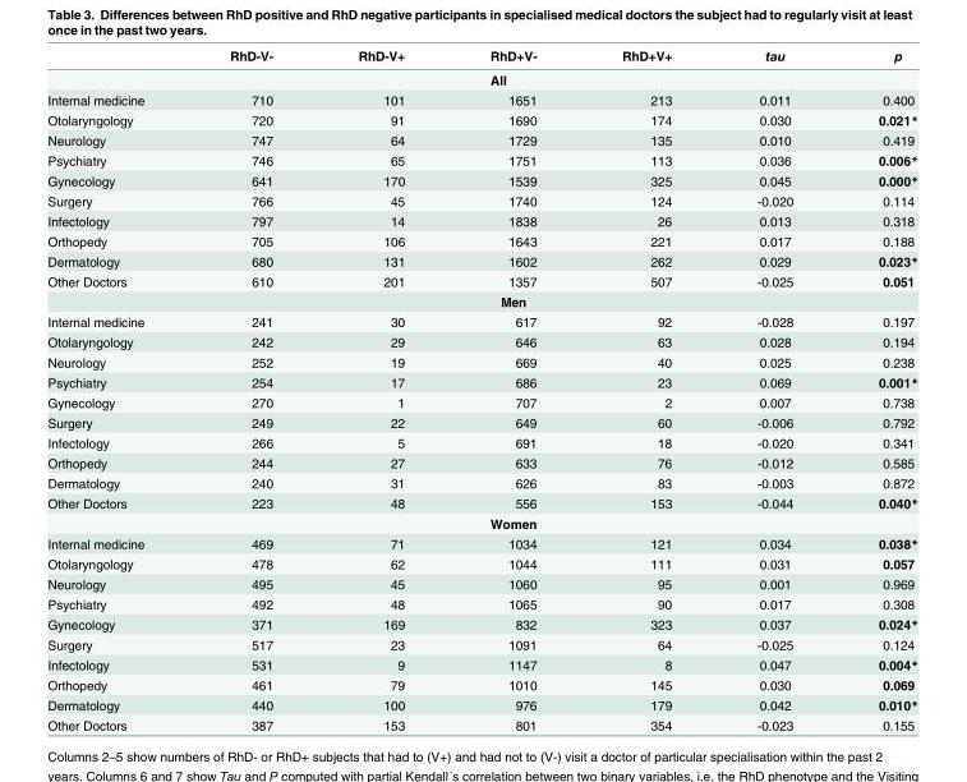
<table><thead><tr><td></td><td>RhD-V-</td><td>RhD-V+</td><td>RhD+V-</td><td>RhD+V+</td><td>tau</td><td>p</td></tr></thead><tbody><tr><td></td><td></td><td></td><td>All</td><td></td><td></td><td></td></tr><tr><td>Internal medicine</td><td>710</td><td>101</td><td>1651</td><td>213</td><td>0.011</td><td>0.400</td></tr><tr><td>Otolaryngology</td><td>720</td><td>91</td><td>1690</td><td>174</td><td>0.030</td><td>0.021*</td></tr><tr><td>Neurology</td><td>747</td><td>64</td><td>1729</td><td>135</td><td>0.010</td><td>0.419</td></tr><tr><td>Psychiatry</td><td>746</td><td>65</td><td>1751</td><td>113</td><td>0.036</td><td>0.006*</td></tr><tr><td>Gynecology</td><td>641</td><td>170</td><td>1539</td><td>325</td><td>0.045</td><td>0.000*</td></tr><tr><td>Surgery</td><td>766</td><td>45</td><td>1740</td><td>124</td><td>-0.020</td><td>0.114</td></tr><tr><td>Infectology</td><td>797</td><td>14</td><td>1838</td><td>26</td><td>0.013</td><td>0.318</td></tr><tr><td>Orthopedy</td><td>705</td><td>106</td><td>1643</td><td>221</td><td>0.017</td><td>0.188</td></tr><tr><td>Dermatology</td><td>680</td><td>131</td><td>1602</td><td>262</td><td>0.029</td><td>0.023*</td></tr><tr><td rowspan="2">Other Doctors</td><td>610</td><td>201</td><td>1357</td><td>507</td><td>-0.025</td><td>0.051</td></tr><tr><td></td><td></td><td>Men</td><td></td><td></td><td></td></tr><tr><td>Internal medicine</td><td>241</td><td>30</td><td>617</td><td>92</td><td>-0.028</td><td>0.197</td></tr><tr><td>Otolaryngology</td><td>242</td><td>29</td><td>646</td><td>63</td><td>0.028</td><td>0.194</td></tr><tr><td>Neurology</td><td>252</td><td>19</td><td>669</td><td>40</td><td>0.025</td><td>0.238</td></tr><tr><td>Psychiatry</td><td>254</td><td>17</td><td>686</td><td>23</td><td>0.069</td><td>0.001*</td></tr><tr><td>Gynecology</td><td>270</td><td>1</td><td>707</td><td>2</td><td>0.007</td><td>0.738</td></tr><tr><td>Surgery</td><td>249</td><td>22</td><td>649</td><td>60</td><td>-0.006</td><td>0.792</td></tr><tr><td>Infectology</td><td>266</td><td>5</td><td>691</td><td>18</td><td>-0.020</td><td>0.341</td></tr><tr><td>Orthopedy</td><td>244</td><td>27</td><td>633</td><td>76</td><td>-0.012</td><td>0.585</td></tr><tr><td>Dermatology</td><td>240</td><td>31</td><td>626</td><td>83</td><td>-0.003</td><td>0.872</td></tr><tr><td rowspan="2">Other Doctors</td><td>223</td><td>48</td><td>556</td><td>153</td><td>-0.044</td><td>0.040*</td></tr><tr><td></td><td></td><td>Women</td><td></td><td></td><td></td></tr><tr><td>Internal medicine</td><td>469</td><td>71</td><td>1034</td><td>121</td><td>0.034</td><td>0.038*</td></tr><tr><td>Otolaryngology</td><td>478</td><td>62</td><td>1044</td><td>111</td><td>0.031</td><td>0.057</td></tr><tr><td>Neurology</td><td>495</td><td>45</td><td>1060</td><td>95</td><td>0.001</td><td>0.969</td></tr><tr><td>Psychiatry</td><td>492</td><td>48</td><td>1065</td><td>90</td><td>0.017</td><td>0.308</td></tr><tr><td>Gynecology</td><td>371</td><td>169</td><td>832</td><td>323</td><td>0.037</td><td>0.024*</td></tr><tr><td>Surgery</td><td>517</td><td>23</td><td>1091</td><td>64</td><td>-0.025</td><td>0.124</td></tr><tr><td>Infectology</td><td>531</td><td>9</td><td>1147</td><td>8</td><td>0.047</td><td>0.004*</td></tr><tr><td>Orthopedy</td><td>461</td><td>79</td><td>1010</td><td>145</td><td>0.030</td><td>0.069</td></tr><tr><td>Dermatology</td><td>440</td><td>100</td><td>976</td><td>179</td><td>0.042</td><td>0.010*</td></tr><tr><td>Other Doctors</td><td>387</td><td>153</td><td>801</td><td>354</td><td>-0.023</td><td>0.155</td></tr></tbody></table>